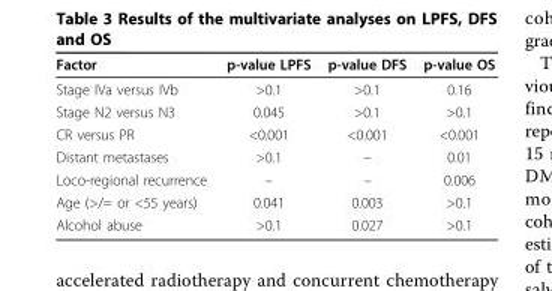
<table><thead><tr><td>Factor</td><td>p-value LPFS</td><td>p-value DFS</td><td>p-value OS</td></tr></thead><tbody><tr><td>Stage IVa versus IVb</td><td>&gt;0.1</td><td>&gt;0.1</td><td>0.16</td></tr><tr><td>Stage N2 versus N3</td><td>0.045</td><td>&gt;0.1</td><td>&gt;0.1</td></tr><tr><td>CR versus PR</td><td>&lt;0.001</td><td>&lt;0.001</td><td>&lt;0.001</td></tr><tr><td>Distant metastases</td><td>&gt;0.1</td><td>–</td><td>0.01</td></tr><tr><td>Loco-regional recurrence</td><td>–</td><td>–</td><td>0.006</td></tr><tr><td>Age (&gt;/= or &lt;55 years)</td><td>0.041</td><td>0.003</td><td>&gt;0.1</td></tr><tr><td>Alcohol abuse</td><td>&gt;0.1</td><td>0.027</td><td>&gt;0.1</td></tr></tbody></table>